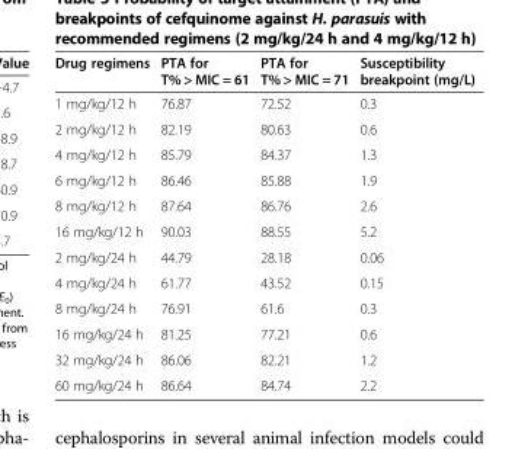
<table><thead><tr><td>Drug regimens</td><td>PTA for T% &gt; MIC = 61</td><td>PTA for T% &gt; MIC = 71</td><td>Susceptibility breakpoint (mg/L)</td></tr></thead><tbody><tr><td>1 mg/kg/12 h</td><td>76.87</td><td>72.52</td><td>0.3</td></tr><tr><td>2 mg/kg/12 h</td><td>82.19</td><td>80.63</td><td>0.6</td></tr><tr><td>4 mg/kg/12 h</td><td>85.79</td><td>84.37</td><td>1.3</td></tr><tr><td>6 mg/kg/12 h</td><td>86.46</td><td>85.88</td><td>1.9</td></tr><tr><td>8 mg/kg/12 h</td><td>87.64</td><td>86.76</td><td>2.6</td></tr><tr><td>16 mg/kg/12 h</td><td>90.03</td><td>88.55</td><td>5.2</td></tr><tr><td>2 mg/kg/24 h</td><td>44.79</td><td>28.18</td><td>0.06</td></tr><tr><td>4 mg/kg/24 h</td><td>61.77</td><td>43.52</td><td>0.15</td></tr><tr><td>8 mg/kg/24 h</td><td>76.91</td><td>61.6</td><td>0.3</td></tr><tr><td>16 mg/kg/24 h</td><td>81.25</td><td>77.21</td><td>0.6</td></tr><tr><td>32 mg/kg/24 h</td><td>86.06</td><td>82.21</td><td>1.2</td></tr><tr><td>60 mg/kg/24 h</td><td>86.64</td><td>84.74</td><td>2.2</td></tr></tbody></table>